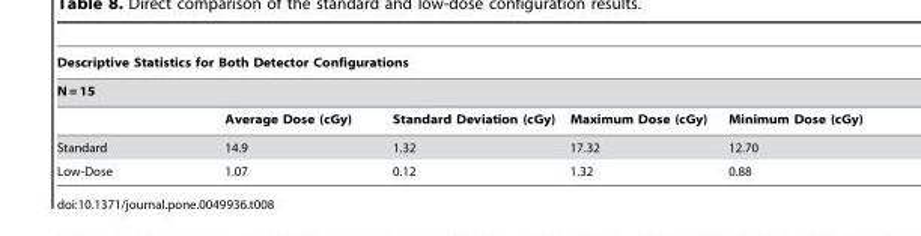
<table><thead><tr><td rowspan="2" colspan="5">Descriptive Statistics for Both Detector Configurations N = 15</td></tr><tr></tr><tr><td></td><td>Average Dose (cGy)</td><td>Standard Deviation (cGy)</td><td>Maximum Dose (cGy)</td><td>Minimum Dose (cGy)</td></tr></thead><tbody><tr><td>Standard</td><td>14.9</td><td>1.32</td><td>17.32</td><td>12.70</td></tr><tr><td>Low-Dose</td><td>1.07</td><td>0.12</td><td>1.32</td><td>0.88</td></tr></tbody></table>